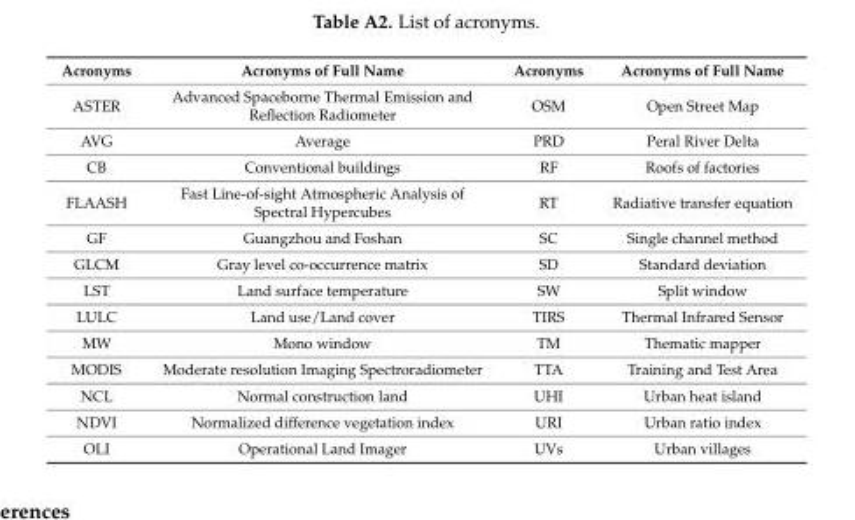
<table><thead><tr><td>Acronyms</td><td>Acronyms of Full Name</td><td>Acronyms</td><td>Acronyms of Full Name</td></tr></thead><tbody><tr><td>ASTER</td><td>Advanced Spaceborne Thermal Emission and Reflection Radiometer</td><td>OSM</td><td>Open Street Map</td></tr><tr><td>AVG</td><td>Average</td><td>PRD</td><td>Peral River Delta</td></tr><tr><td>CB</td><td>Conventional buildings</td><td>RF</td><td>Roofs of factories</td></tr><tr><td>FLAASH</td><td>Fast Line-of-sight Atmospheric Analysis of Spectral Hypercubes</td><td>RT</td><td>Radiative transfer equation</td></tr><tr><td>GF</td><td>Guangzhou and Foshan</td><td>SC</td><td>Single channel method</td></tr><tr><td>GLCM</td><td>Gray level co-occurrence matrix</td><td>SD</td><td>Standard deviation</td></tr><tr><td>LST</td><td>Land surface temperature</td><td>SW</td><td>Split window</td></tr><tr><td>LULC</td><td>Land use/Land cover</td><td>TIRS</td><td>Thermal Infrared Sensor</td></tr><tr><td>MW</td><td>Mono window</td><td>TM</td><td>Thematic mapper</td></tr><tr><td>MODIS</td><td>Moderate resolution Imaging Spectroradiometer</td><td>TTA</td><td>Training and Test Area</td></tr><tr><td>NCL</td><td>Normal construction land</td><td>UHI</td><td>Urban heat island</td></tr><tr><td>NDVI</td><td>Normalized difference vegetation index</td><td>URI</td><td>Urban ratio index</td></tr><tr><td>OLI</td><td>Operational Land Imager</td><td>UVs</td><td>Urban villages</td></tr></tbody></table>